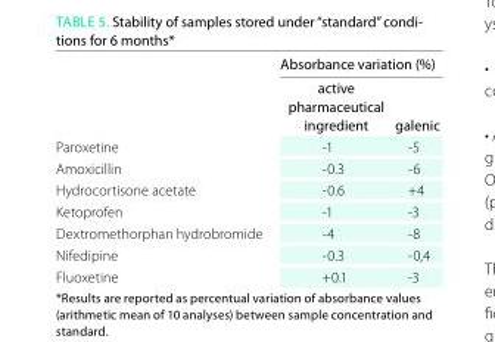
<table><thead><tr><td rowspan="2"></td><td colspan="2">Absorbance variation (%)</td></tr><tr><td>active pharmaceutical ingredient</td><td>galenic</td></tr></thead><tbody><tr><td>Paroxetine</td><td>-1</td><td>-5</td></tr><tr><td>Amoxicillin</td><td>-0.3</td><td>-6</td></tr><tr><td>Hydrocortisone acetate</td><td>-0.6</td><td>+4</td></tr><tr><td>Ketoprofen</td><td>-1</td><td>-3</td></tr><tr><td>Dextromethorphan hydrobromide</td><td>-4</td><td>-8</td></tr><tr><td>Nifedipine</td><td>-0.3</td><td>-0,4</td></tr><tr><td>Fluoxetine</td><td>+0.1</td><td>-3</td></tr></tbody></table>